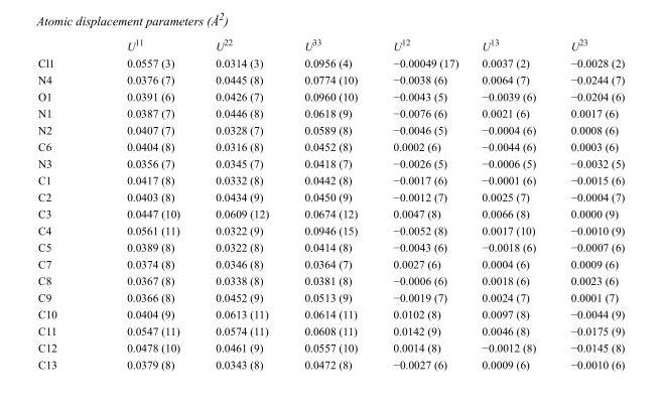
<table><thead><tr><td></td><td>U<sup>11</sup></td><td>U<sup>22</sup></td><td>U<sup>33</sup></td><td>U<sup>12</sup></td><td>U<sup>13</sup></td><td>U<sup>23</sup></td></tr></thead><tbody><tr><td>Cl1</td><td>0.0557 (3)</td><td>0.0314 (3)</td><td>0.0956 (4)</td><td>−0.00049 (17)</td><td>0.0037 (2)</td><td>−0.0028 (2)</td></tr><tr><td>N4</td><td>0.0376 (7)</td><td>0.0445 (8)</td><td>0.0774 (10)</td><td>−0.0038 (6)</td><td>0.0064 (7)</td><td>−0.0244 (7)</td></tr><tr><td>O1</td><td>0.0391 (6)</td><td>0.0426 (7)</td><td>0.0960 (10)</td><td>−0.0043 (5)</td><td>−0.0039 (6)</td><td>−0.0204 (6)</td></tr><tr><td>N1</td><td>0.0387 (7)</td><td>0.0446 (8)</td><td>0.0618 (9)</td><td>−0.0076 (6)</td><td>0.0021 (6)</td><td>0.0017 (6)</td></tr><tr><td>N2</td><td>0.0407 (7)</td><td>0.0328 (7)</td><td>0.0589 (8)</td><td>−0.0046 (5)</td><td>−0.0004 (6)</td><td>0.0008 (6)</td></tr><tr><td>C6</td><td>0.0404 (8)</td><td>0.0316 (8)</td><td>0.0452 (8)</td><td>0.0002 (6)</td><td>−0.0044 (6)</td><td>0.0003 (6)</td></tr><tr><td>N3</td><td>0.0356 (7)</td><td>0.0345 (7)</td><td>0.0418 (7)</td><td>−0.0026 (5)</td><td>−0.0006 (5)</td><td>−0.0032 (5)</td></tr><tr><td>C1</td><td>0.0417 (8)</td><td>0.0332 (8)</td><td>0.0442 (8)</td><td>−0.0017 (6)</td><td>−0.0001 (6)</td><td>−0.0015 (6)</td></tr><tr><td>C2</td><td>0.0403 (8)</td><td>0.0434 (9)</td><td>0.0450 (9)</td><td>−0.0012 (7)</td><td>0.0025 (7)</td><td>−0.0004 (7)</td></tr><tr><td>C3</td><td>0.0447 (10)</td><td>0.0609 (12)</td><td>0.0674 (12)</td><td>0.0047 (8)</td><td>0.0066 (8)</td><td>0.0000 (9)</td></tr><tr><td>C4</td><td>0.0561 (11)</td><td>0.0322 (9)</td><td>0.0946 (15)</td><td>−0.0052 (8)</td><td>0.0017 (10)</td><td>−0.0010 (9)</td></tr><tr><td>C5</td><td>0.0389 (8)</td><td>0.0322 (8)</td><td>0.0414 (8)</td><td>−0.0043 (6)</td><td>−0.0018 (6)</td><td>−0.0007 (6)</td></tr><tr><td>C7</td><td>0.0374 (8)</td><td>0.0346 (8)</td><td>0.0364 (7)</td><td>0.0027 (6)</td><td>0.0004 (6)</td><td>0.0009 (6)</td></tr><tr><td>C8</td><td>0.0367 (8)</td><td>0.0338 (8)</td><td>0.0381 (8)</td><td>−0.0006 (6)</td><td>0.0018 (6)</td><td>0.0023 (6)</td></tr><tr><td>C9</td><td>0.0366 (8)</td><td>0.0452 (9)</td><td>0.0513 (9)</td><td>−0.0019 (7)</td><td>0.0024 (7)</td><td>0.0001 (7)</td></tr><tr><td>C10</td><td>0.0404 (9)</td><td>0.0613 (11)</td><td>0.0614 (11)</td><td>0.0102 (8)</td><td>0.0097 (8)</td><td>−0.0044 (9)</td></tr><tr><td>C11</td><td>0.0547 (11)</td><td>0.0574 (11)</td><td>0.0608 (11)</td><td>0.0142 (9)</td><td>0.0046 (8)</td><td>−0.0175 (9)</td></tr><tr><td>C12</td><td>0.0478 (10)</td><td>0.0461 (9)</td><td>0.0557 (10)</td><td>0.0014 (8)</td><td>−0.0012 (8)</td><td>−0.0145 (8)</td></tr><tr><td>C13</td><td>0.0379 (8)</td><td>0.0343 (8)</td><td>0.0472 (8)</td><td>−0.0027 (6)</td><td>0.0009 (6)</td><td>−0.0010 (6)</td></tr></tbody></table>